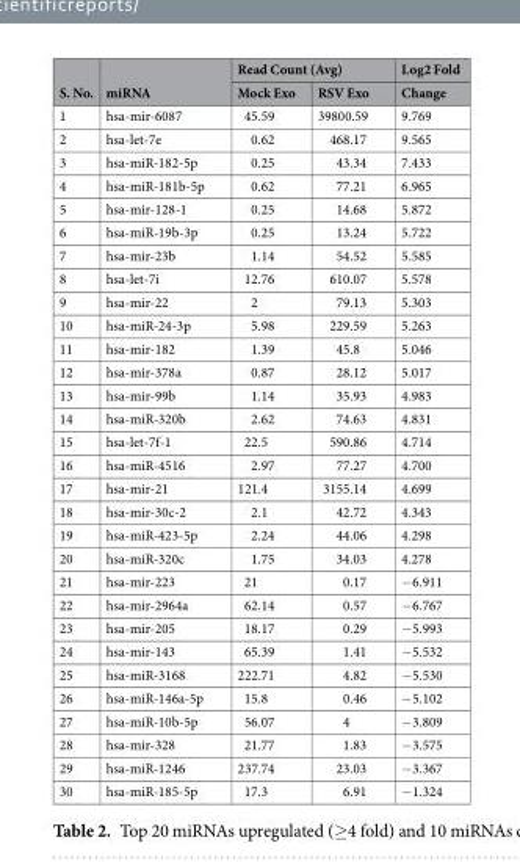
<table><thead><tr><td rowspan="2">S. No.</td><td rowspan="2">miRNA</td><td colspan="2">Read Count (Avg)</td><td rowspan="2">Log2 Fold Change</td></tr><tr><td>Mock Exo</td><td>RSV Exo</td></tr></thead><tbody><tr><td>1</td><td>hsa-mir-6087</td><td>45.59</td><td>39800.59</td><td>9.769</td></tr><tr><td>2</td><td>hsa-let-7e</td><td>0.62</td><td>468.17</td><td>9.565</td></tr><tr><td>3</td><td>hsa-miR-182-5p</td><td>0.25</td><td>43.34</td><td>7.433</td></tr><tr><td>4</td><td>hsa-miR-181b-5p</td><td>0.62</td><td>77.21</td><td>6.965</td></tr><tr><td>5</td><td>hsa-mir-128-1</td><td>0.25</td><td>14.68</td><td>5.872</td></tr><tr><td>6</td><td>hsa-miR-19b-3p</td><td>0.25</td><td>13.24</td><td>5.722</td></tr><tr><td>7</td><td>hsa-mir-23b</td><td>1.14</td><td>54.52</td><td>5.585</td></tr><tr><td>8</td><td>hsa-let-7i</td><td>12.76</td><td>610.07</td><td>5.578</td></tr><tr><td>9</td><td>hsa-mir-22</td><td>2</td><td>79.13</td><td>5.303</td></tr><tr><td>10</td><td>hsa-miR-24-3p</td><td>5.98</td><td>229.59</td><td>5.263</td></tr><tr><td>11</td><td>hsa-mir-182</td><td>1.39</td><td>45.8</td><td>5.046</td></tr><tr><td>12</td><td>hsa-mir-378a</td><td>0.87</td><td>28.12</td><td>5.017</td></tr><tr><td>13</td><td>hsa-mir-99b</td><td>1.14</td><td>35.93</td><td>4.983</td></tr><tr><td>14</td><td>hsa-miR-320b</td><td>2.62</td><td>74.63</td><td>4.831</td></tr><tr><td>15</td><td>hsa-let-7f-1</td><td>22.5</td><td>590.86</td><td>4.714</td></tr><tr><td>16</td><td>hsa-miR-4516</td><td>2.97</td><td>77.27</td><td>4.700</td></tr><tr><td>17</td><td>hsa-mir-21</td><td>121.4</td><td>3155.14</td><td>4.699</td></tr><tr><td>18</td><td>hsa-mir-30c-2</td><td>2.1</td><td>42.72</td><td>4.343</td></tr><tr><td>19</td><td>hsa-miR-423-5p</td><td>2.24</td><td>44.06</td><td>4.298</td></tr><tr><td>20</td><td>hsa-miR-320c</td><td>1.75</td><td>34.03</td><td>4.278</td></tr><tr><td>21</td><td>hsa-mir-223</td><td>21</td><td>0.17</td><td>−6.911</td></tr><tr><td>22</td><td>hsa-mir-2964a</td><td>62.14</td><td>0.57</td><td>−6.767</td></tr><tr><td>23</td><td>hsa-mir-205</td><td>18.17</td><td>0.29</td><td>−5.993</td></tr><tr><td>24</td><td>hsa-mir-143</td><td>65.39</td><td>1.41</td><td>−5.532</td></tr><tr><td>25</td><td>hsa-miR-3168</td><td>222.71</td><td>4.82</td><td>−5.530</td></tr><tr><td>26</td><td>hsa-miR-146a-5p</td><td>15.8</td><td>0.46</td><td>−5.102</td></tr><tr><td>27</td><td>hsa-miR-10b-5p</td><td>56.07</td><td>4</td><td>−3.809</td></tr><tr><td>28</td><td>hsa-mir-328</td><td>21.77</td><td>1.83</td><td>−3.575</td></tr><tr><td>29</td><td>hsa-miR-1246</td><td>237.74</td><td>23.03</td><td>−3.367</td></tr><tr><td>30</td><td>hsa-miR-185-5p</td><td>17.3</td><td>6.91</td><td>−1.324</td></tr></tbody></table>